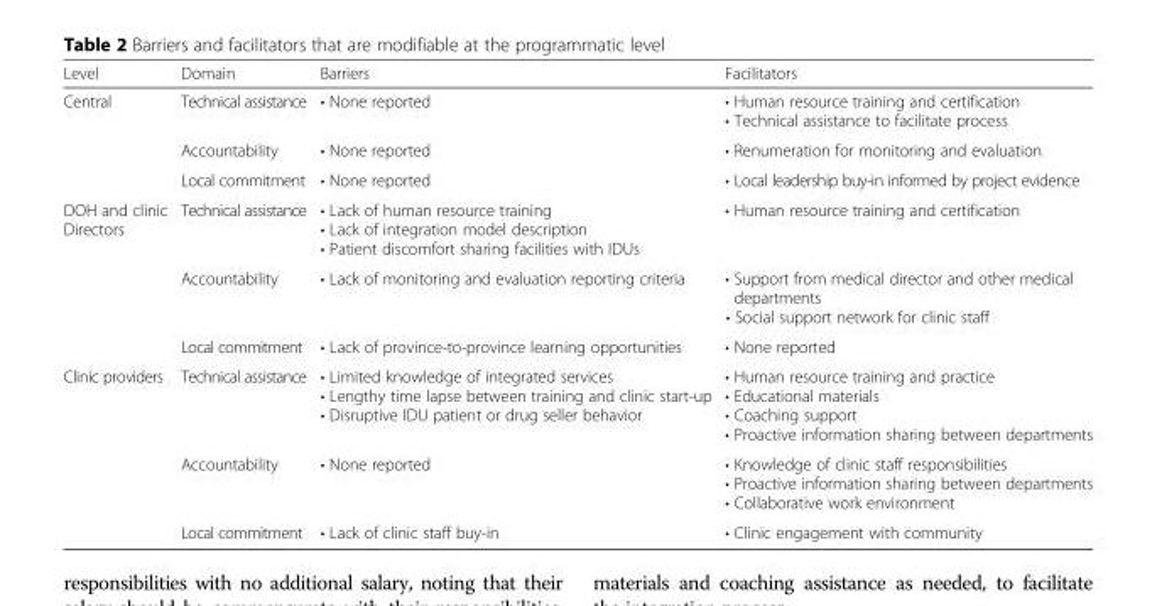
<table><thead><tr><td>Level</td><td>Domain</td><td>Barriers</td><td>Facilitators</td></tr></thead><tbody><tr><td rowspan="3">Central</td><td>Technical assistance</td><td>• None reported</td><td>• Human resource training and certification • Technical assistance to facilitate process</td></tr><tr><td>Accountability</td><td>• None reported</td><td>• Renumeration for monitoring and evaluation</td></tr><tr><td>Local commitment</td><td>• None reported</td><td>• Local leadership buy-in informed by project evidence</td></tr><tr><td rowspan="3">DOH and clinic Directors</td><td>Technical assistance</td><td>• Lack of human resource training • Lack of integration model description • Patient discomfort sharing facilities with IDUs</td><td>• Human resource training and certification</td></tr><tr><td>Accountability</td><td>• Lack of monitoring and evaluation reporting criteria</td><td>• Support from medical director and other medical departments • Social support network for clinic staff</td></tr><tr><td>Local commitment</td><td>• Lack of province-to-province learning opportunities</td><td>• None reported</td></tr><tr><td rowspan="3">Clinic providers</td><td>Technical assistance</td><td>• Limited knowledge of integrated services • Lengthy time lapse between training and clinic start-up • Disruptive IDU patient or drug seller behavior</td><td>• Human resource training and practice • Educational materials • Coaching support • Proactive information sharing between departments</td></tr><tr><td>Accountability</td><td>• None reported</td><td>• Knowledge of clinic staff responsibilities • Proactive information sharing between departments • Collaborative work environment</td></tr><tr><td>Local commitment</td><td>• Lack of clinic staff buy-in</td><td>• Clinic engagement with community</td></tr></tbody></table>